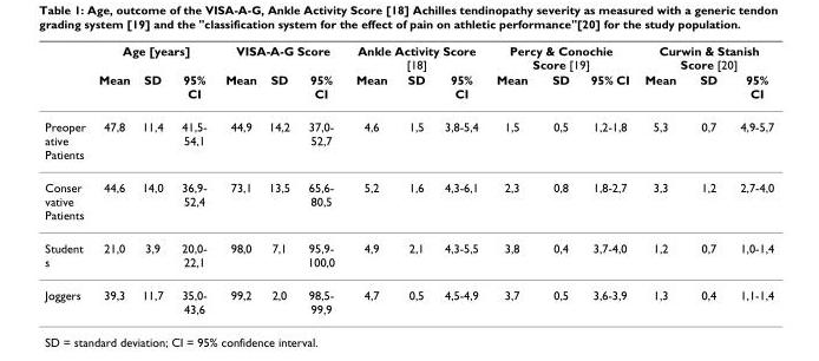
<table><thead><tr><td rowspan="2"></td><td colspan="3">Age [years]</td><td colspan="3">VISA-A-G Score</td><td colspan="3">Ankle Activity Score [18]</td><td colspan="3">Percy &amp; Conochie Score [19]</td><td colspan="3">Curwin &amp; Stanish Score [20]</td></tr><tr><td>Mean</td><td>SD</td><td>95% CI</td><td>Mean</td><td>SD</td><td>95% CI</td><td>Mean</td><td>SD</td><td>95% CI</td><td>Mean</td><td>SD</td><td>95% CI</td><td>Mean</td><td>SD</td><td>95% CI</td></tr></thead><tbody><tr><td>Preoper ative Patients</td><td>47,8</td><td>11,4</td><td>41,5- 54,1</td><td>44,9</td><td>14,2</td><td>37,0- 52,7</td><td>4,6</td><td>1,5</td><td>3,8-5,4</td><td>1,5</td><td>0,5</td><td>1,2-1,8</td><td>5,3</td><td>0,7</td><td>4,9-5,7</td></tr><tr><td>Conser vative Patients</td><td>44,6</td><td>14,0</td><td>36,9- 52,4</td><td>73,1</td><td>13,5</td><td>65,6- 80,5</td><td>5,2</td><td>1,6</td><td>4,3-6,1</td><td>2,3</td><td>0,8</td><td>1,8-2,7</td><td>3,3</td><td>1,2</td><td>2,7-4,0</td></tr><tr><td>Student s</td><td>21,0</td><td>3,9</td><td>20,0- 22,1</td><td>98,0</td><td>7,1</td><td>95,9- 100,0</td><td>4,9</td><td>2,1</td><td>4,3-5,5</td><td>3,8</td><td>0,4</td><td>3,7-4,0</td><td>1,2</td><td>0,7</td><td>1,0-1,4</td></tr><tr><td>Joggers</td><td>39,3</td><td>11,7</td><td>35,0- 43,6</td><td>99,2</td><td>2,0</td><td>98,5- 99,9</td><td>4,7</td><td>0,5</td><td>4,5-4,9</td><td>3,7</td><td>0,5</td><td>3,6-3,9</td><td>1,3</td><td>0,4</td><td>1,1-1,4</td></tr></tbody></table>